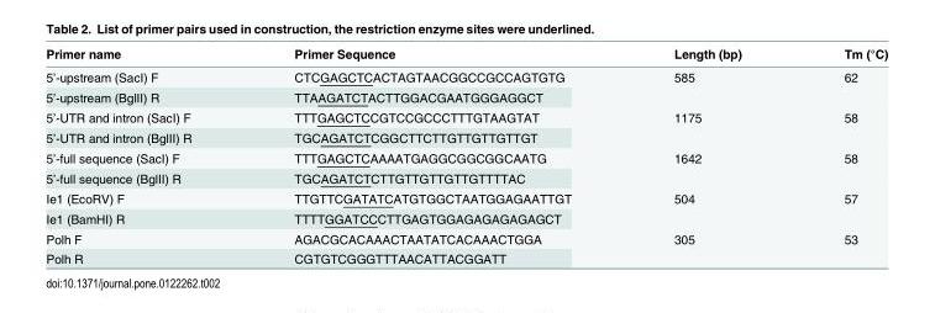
<table><thead><tr><td>Primer name</td><td>Primer Sequence</td><td>Length (bp)</td><td>Tm (°C)</td></tr></thead><tbody><tr><td>5’-upstream (SacI) F</td><td>CTCGAGCTCACTAGTAACGGCCGCCAGTGTG</td><td rowspan="2">585</td><td rowspan="2">62</td></tr><tr><td>5’-upstream (BglII) R</td><td>TTAAGATCTACTTGGACGAATGGGAGGCT</td></tr><tr><td>5’-UTR and intron (SacI) F</td><td>TTTGAGCTCCGTCCGCCCTTTGTAAGTAT</td><td rowspan="2">1175</td><td rowspan="2">58</td></tr><tr><td>5’-UTR and intron (BglII) R</td><td>TGCAGATCTCGGCTTCTTGTTGTTGTTGT</td></tr><tr><td>5’-full sequence (SacI) F</td><td>TTTGAGCTCAAAATGAGGCGGCGGCAATG</td><td rowspan="2">1642</td><td rowspan="2">58</td></tr><tr><td>5’-full sequence (BglII) R</td><td>TGCAGATCTCTTGTTGTTGTTGTTTTAC</td></tr><tr><td>Ie1 (EcoRV) F</td><td>TTGTTCGATATCATGTGGCTAATGGAGAATTGT</td><td rowspan="2">504</td><td rowspan="2">57</td></tr><tr><td>Ie1 (BamHI) R</td><td>TTTTGGATCCCTTGAGTGGAGAGAGAGAGCT</td></tr><tr><td>Polh F</td><td>AGACGCACAAACTAATATCACAAACTGGA</td><td rowspan="2">305</td><td rowspan="2">53</td></tr><tr><td>Polh R</td><td>CGTGTCGGGTTTAACATTACGGATT</td></tr></tbody></table>